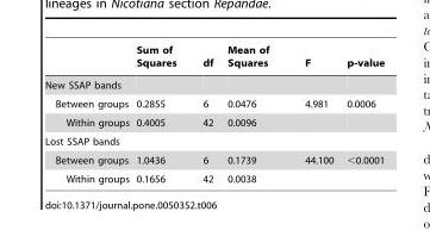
<table><thead><tr><td></td><td>Sum of Squares</td><td>df</td><td>Mean of Squares</td><td>F</td><td>p-value</td></tr></thead><tbody><tr><td colspan="6">New SSAP bands</td></tr><tr><td>Between groups</td><td>0.2855</td><td>6</td><td>0.0476</td><td>4.981</td><td>0.0006</td></tr><tr><td>Within groups</td><td>0.4005</td><td>42</td><td>0.0096</td><td></td><td></td></tr><tr><td colspan="6">Lost SSAP bands</td></tr><tr><td>Between groups</td><td>1.0436</td><td>6</td><td>0.1739</td><td>44.100</td><td>&lt;0.0001</td></tr><tr><td>Within groups</td><td>0.1656</td><td>42</td><td>0.0038</td><td></td><td></td></tr></tbody></table>